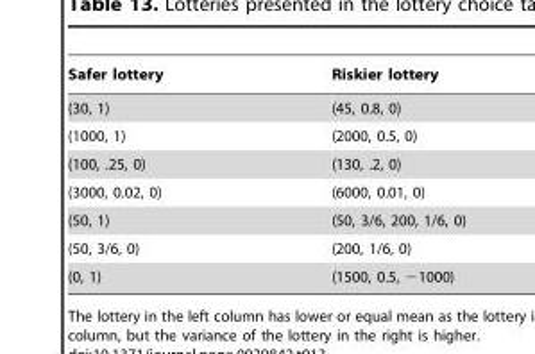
<table><thead><tr><td>Safer lottery</td><td>Riskier lottery</td></tr></thead><tbody><tr><td>(30, 1)</td><td>(45, 0.8, 0)</td></tr><tr><td>(1000, 1)</td><td>(2000, 0.5, 0)</td></tr><tr><td>(100, .25, 0)</td><td>(130, .2, 0)</td></tr><tr><td>(3000, 0.02, 0)</td><td>(6000, 0.01, 0)</td></tr><tr><td>(50, 1)</td><td>(50, 3/6, 200, 1/6, 0)</td></tr><tr><td>(50, 3/6, 0)</td><td>(200, 1/6, 0)</td></tr><tr><td>(0, 1)</td><td>(1500, 0.5, −1000)</td></tr></tbody></table>